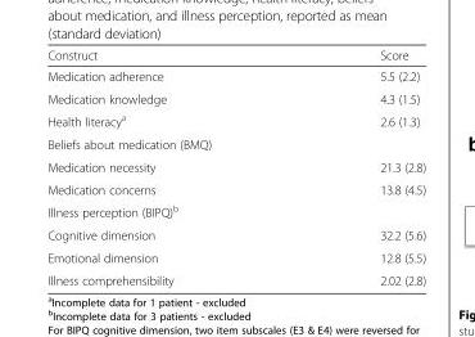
<table><thead><tr><td>Construct</td><td>Score</td></tr></thead><tbody><tr><td>Medication adherence</td><td>5.5 (2.2)</td></tr><tr><td>Medication knowledge</td><td>4.3 (1.5)</td></tr><tr><td>Health literacy<sup>a</sup></td><td>2.6 (1.3)</td></tr><tr><td colspan="2">Beliefs about medication (BMQ)</td></tr><tr><td>Medication necessity</td><td>21.3 (2.8)</td></tr><tr><td>Medication concerns</td><td>13.8 (4.5)</td></tr><tr><td colspan="2">Illness perception (BIPQ)<sup>b</sup></td></tr><tr><td>Cognitive dimension</td><td>32.2 (5.6)</td></tr><tr><td>Emotional dimension</td><td>12.8 (5.5)</td></tr><tr><td>Illness comprehensibility</td><td>2.02 (2.8)</td></tr></tbody></table>